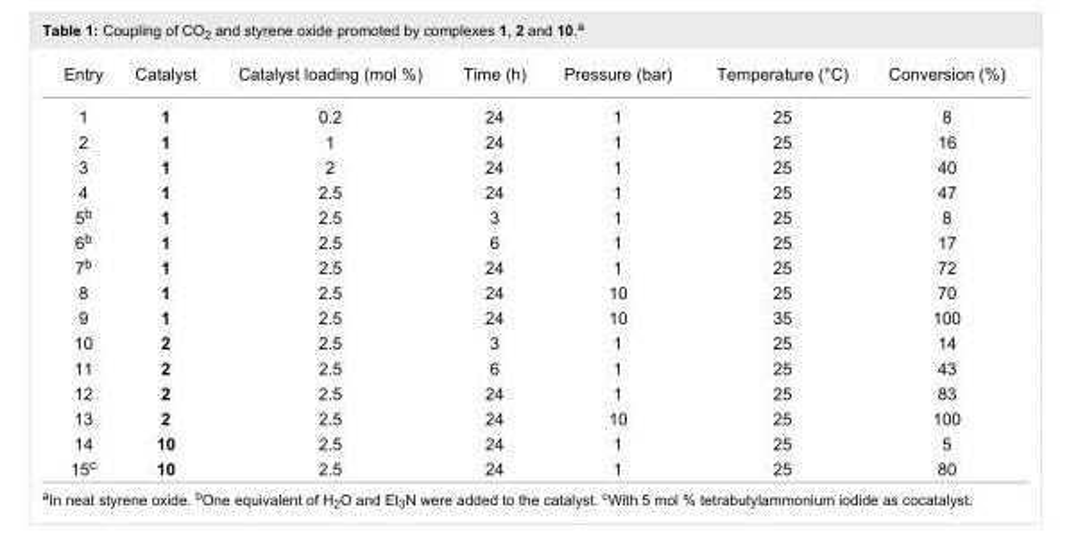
<table><tbody><tr><td>Entry</td><td>Catalyst</td><td>Catalyst loading (mol %)</td><td>Time (h)</td><td>Pressure (bar)</td><td>Temperature (°C)</td><td>Conversion (%)</td></tr><tr><td>1</td><td>1</td><td>0.2</td><td>24</td><td>1</td><td>25</td><td>8</td></tr><tr><td>2</td><td>1</td><td>1</td><td>24</td><td>1</td><td>25</td><td>16</td></tr><tr><td>3</td><td>1</td><td>2</td><td>24</td><td>1</td><td>25</td><td>40</td></tr><tr><td>4</td><td>1</td><td>2.5</td><td>24</td><td>1</td><td>25</td><td>47</td></tr><tr><td>5<sup>b</sup></td><td>1</td><td>2.5</td><td>3</td><td>1</td><td>25</td><td>8</td></tr><tr><td>6<sup>b</sup></td><td>1</td><td>2.5</td><td>6</td><td>1</td><td>25</td><td>17</td></tr><tr><td>7<sup>b</sup></td><td>1</td><td>2.5</td><td>24</td><td>1</td><td>25</td><td>72</td></tr><tr><td>8</td><td>1</td><td>2.5</td><td>24</td><td>10</td><td>25</td><td>70</td></tr><tr><td>9</td><td>1</td><td>2.5</td><td>24</td><td>10</td><td>35</td><td>100</td></tr><tr><td>10</td><td>2</td><td>2.5</td><td>3</td><td>1</td><td>25</td><td>14</td></tr><tr><td>11</td><td>2</td><td>2.5</td><td>6</td><td>1</td><td>25</td><td>43</td></tr><tr><td>12</td><td>2</td><td>2.5</td><td>24</td><td>1</td><td>25</td><td>83</td></tr><tr><td>13</td><td>2</td><td>2.5</td><td>24</td><td>10</td><td>25</td><td>100</td></tr><tr><td>14</td><td>10</td><td>2.5</td><td>24</td><td>1</td><td>25</td><td>5</td></tr><tr><td>15<sup>c</sup></td><td>10</td><td>2.5</td><td>24</td><td>1</td><td>25</td><td>80</td></tr></tbody></table>